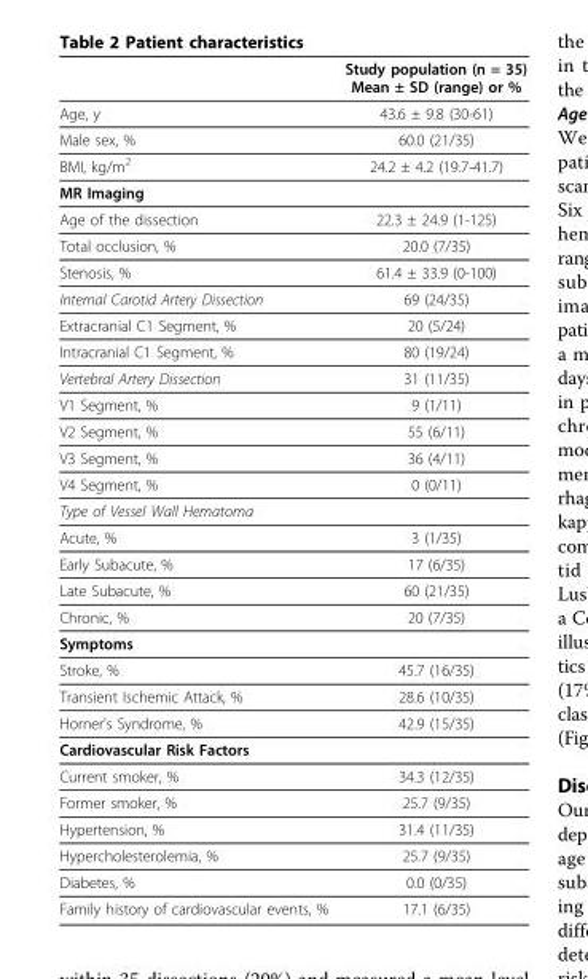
<table><thead><tr><td></td><td>Study population (n = 35) Mean ± SD (range) or %</td></tr></thead><tbody><tr><td>Age, y</td><td>43.6 ± 9.8 (30-61)</td></tr><tr><td>Male sex, %</td><td>60.0 (21/35)</td></tr><tr><td>BMI, kg/m<sup>2</sup></td><td>24.2 ± 4.2 (19.7-41.7)</td></tr><tr><td colspan="2">MR Imaging</td></tr><tr><td>Age of the dissection</td><td>22.3 ± 24.9 (1-125)</td></tr><tr><td>Total occlusion, %</td><td>20.0 (7/35)</td></tr><tr><td>Stenosis, %</td><td>61.4 ± 33.9 (0-100)</td></tr><tr><td>Internal Carotid Artery Dissection</td><td>69 (24/35)</td></tr><tr><td>Extracranial C1 Segment, %</td><td>20 (5/24)</td></tr><tr><td>Intracranial C1 Segment, %</td><td>80 (19/24)</td></tr><tr><td>Vertebral Artery Dissection</td><td>31 (11/35)</td></tr><tr><td>V1 Segment, %</td><td>9 (1/11)</td></tr><tr><td>V2 Segment, %</td><td>55 (6/11)</td></tr><tr><td>V3 Segment, %</td><td>36 (4/11)</td></tr><tr><td>V4 Segment, %</td><td>0 (0/11)</td></tr><tr><td colspan="2">Type of Vessel Wall Hematoma</td></tr><tr><td>Acute, %</td><td>3 (1/35)</td></tr><tr><td>Early Subacute, %</td><td>17 (6/35)</td></tr><tr><td>Late Subacute, %</td><td>60 (21/35)</td></tr><tr><td>Chronic, %</td><td>20 (7/35)</td></tr><tr><td colspan="2">Symptoms</td></tr><tr><td>Stroke, %</td><td>45.7 (16/35)</td></tr><tr><td>Transient Ischemic Attack, %</td><td>28.6 (10/35)</td></tr><tr><td>Horner’s Syndrome, %</td><td>42.9 (15/35)</td></tr><tr><td colspan="2">Cardiovascular Risk Factors</td></tr><tr><td>Current smoker, %</td><td>34.3 (12/35)</td></tr><tr><td>Former smoker, %</td><td>25.7 (9/35)</td></tr><tr><td>Hypertension, %</td><td>31.4 (11/35)</td></tr><tr><td>Hypercholesterolemia, %</td><td>25.7 (9/35)</td></tr><tr><td>Diabetes, %</td><td>0.0 (0/35)</td></tr><tr><td>Family history of cardiovascular events, %</td><td>17.1 (6/35)</td></tr></tbody></table>